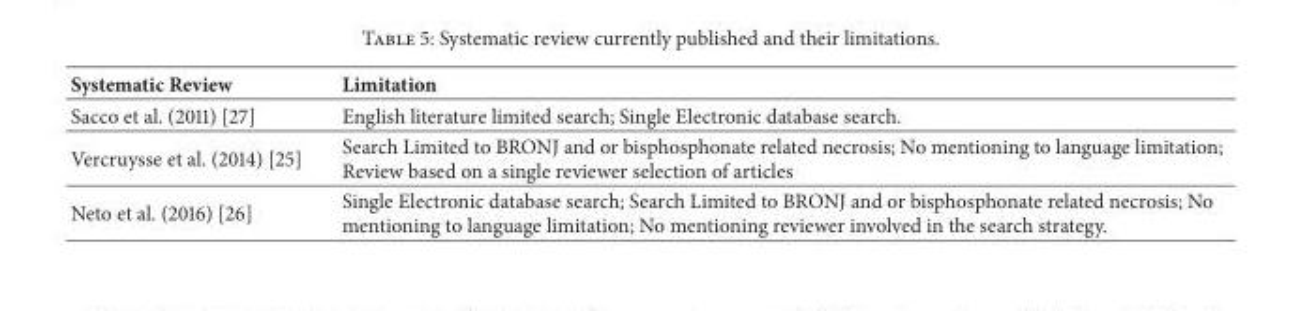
<table><thead><tr><td>Systematic Review</td><td>Limitation</td></tr></thead><tbody><tr><td>Sacco et al. (2011) [27]</td><td>English literature limited search; Single Electronic database search.</td></tr><tr><td>Vercruysse et al. (2014) [25]</td><td>Search Limited to BRONJ and or bisphosphonate related necrosis; No mentioning to language limitation; Review based on a single reviewer selection of articles</td></tr><tr><td>Neto et al. (2016) [26]</td><td>Single Electronic database search; Search Limited to BRONJ and or bisphosphonate related necrosis; No mentioning to language limitation; No mentioning reviewer involved in the search strategy.</td></tr></tbody></table>